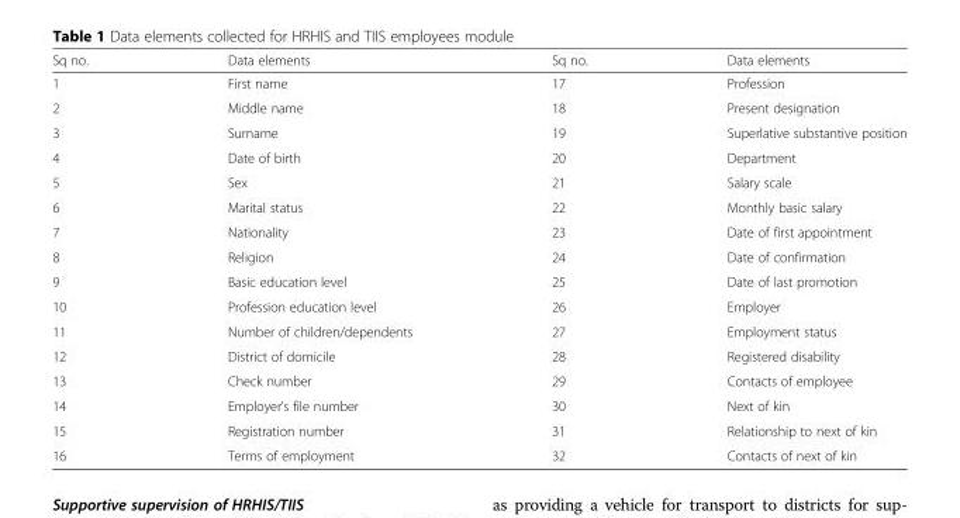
<table><thead><tr><td>Sq no.</td><td>Data elements</td><td>Sq no.</td><td>Data elements</td></tr></thead><tbody><tr><td>1</td><td>First name</td><td>17</td><td>Profession</td></tr><tr><td>2</td><td>Middle name</td><td>18</td><td>Present designation</td></tr><tr><td>3</td><td>Surname</td><td>19</td><td>Superlative substantive position</td></tr><tr><td>4</td><td>Date of birth</td><td>20</td><td>Department</td></tr><tr><td>5</td><td>Sex</td><td>21</td><td>Salary scale</td></tr><tr><td>6</td><td>Marital status</td><td>22</td><td>Monthly basic salary</td></tr><tr><td>7</td><td>Nationality</td><td>23</td><td>Date of first appointment</td></tr><tr><td>8</td><td>Religion</td><td>24</td><td>Date of confirmation</td></tr><tr><td>9</td><td>Basic education level</td><td>25</td><td>Date of last promotion</td></tr><tr><td>10</td><td>Profession education level</td><td>26</td><td>Employer</td></tr><tr><td>11</td><td>Number of children/dependents</td><td>27</td><td>Employment status</td></tr><tr><td>12</td><td>District of domicile</td><td>28</td><td>Registered disability</td></tr><tr><td>13</td><td>Check number</td><td>29</td><td>Contacts of employee</td></tr><tr><td>14</td><td>Employer’s file number</td><td>30</td><td>Next of kin</td></tr><tr><td>15</td><td>Registration number</td><td>31</td><td>Relationship to next of kin</td></tr><tr><td>16</td><td>Terms of employment</td><td>32</td><td>Contacts of next of kin</td></tr></tbody></table>